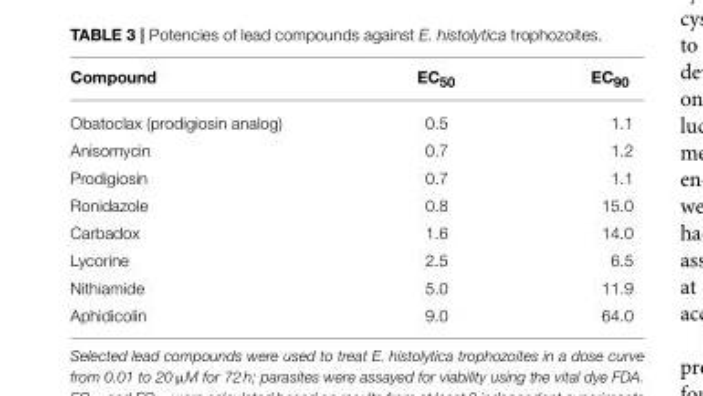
<table><thead><tr><td>Compound</td><td>EC<sub>50</sub></td><td>EC<sub>90</sub></td></tr></thead><tbody><tr><td>Obatoclax (prodigiosin analog)</td><td>0.5</td><td>1.1</td></tr><tr><td>Anisomycin</td><td>0.7</td><td>1.2</td></tr><tr><td>Prodigiosin</td><td>0.7</td><td>1.1</td></tr><tr><td>Ronidazole</td><td>0.8</td><td>15.0</td></tr><tr><td>Carbadox</td><td>1.6</td><td>14.0</td></tr><tr><td>Lycorine</td><td>2.5</td><td>6.5</td></tr><tr><td>Nithiamide</td><td>5.0</td><td>11.9</td></tr><tr><td>Aphidicolin</td><td>9.0</td><td>64.0</td></tr></tbody></table>